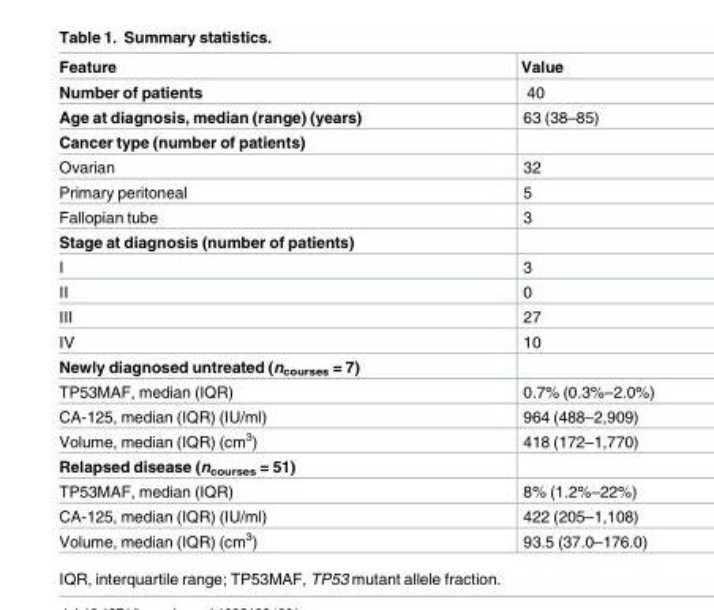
<table><thead><tr><td>Feature</td><td>Value</td></tr></thead><tbody><tr><td>Number of patients</td><td>40</td></tr><tr><td>Age at diagnosis, median (range) (years)</td><td>63 (38–85)</td></tr><tr><td colspan="2">Cancer type (number of patients)</td></tr><tr><td>Ovarian</td><td>32</td></tr><tr><td>Primary peritoneal</td><td>5</td></tr><tr><td>Fallopian tube</td><td>3</td></tr><tr><td colspan="2">Stage at diagnosis (number of patients)</td></tr><tr><td>I</td><td>3</td></tr><tr><td>II</td><td>0</td></tr><tr><td>III</td><td>27</td></tr><tr><td>IV</td><td>10</td></tr><tr><td colspan="2">Newly diagnosed untreated (n<sub>courses</sub> = 7)</td></tr><tr><td>TP53MAF, median (IQR)</td><td>0.7% (0.3%–2.0%)</td></tr><tr><td>CA-125, median (IQR) (IU/ml)</td><td>964 (488–2,909)</td></tr><tr><td>Volume, median (IQR) (cm<sup>3</sup>)</td><td>418 (172–1,770)</td></tr><tr><td colspan="2">Relapsed disease (n<sub>courses</sub> = 51)</td></tr><tr><td>TP53MAF, median (IQR)</td><td>8% (1.2%–22%)</td></tr><tr><td>CA-125, median (IQR) (IU/ml)</td><td>422 (205–1,108)</td></tr><tr><td>Volume, median (IQR) (cm<sup>3</sup>)</td><td>93.5 (37.0–176.0)</td></tr></tbody></table>